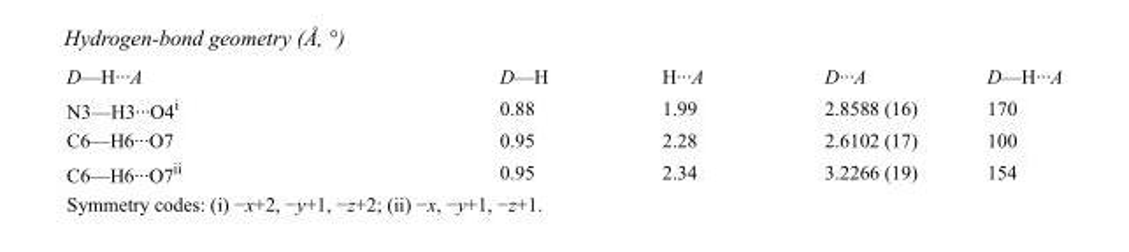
<table><tbody><tr><td>D—H···A</td><td>D—H</td><td>H···A</td><td>D···A</td><td>D—H···A</td></tr><tr><td>N3—H3···O4<sup>i</sup></td><td>0.88</td><td>1.99</td><td>2.8588 (16)</td><td>170</td></tr><tr><td>C6—H6···O7</td><td>0.95</td><td>2.28</td><td>2.6102 (17)</td><td>100</td></tr><tr><td>C6—H6···O7<sup>ii</sup></td><td>0.95</td><td>2.34</td><td>3.2266 (19)</td><td>154</td></tr></tbody></table>